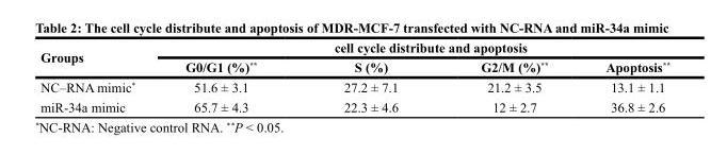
<table><thead><tr><td rowspan="2">Groups</td><td colspan="4">cell cycle distribute and apoptosis</td></tr><tr><td>G0/G1 (%)**</td><td>S (%)</td><td>G2/M (%)**</td><td>Apoptosis**</td></tr></thead><tbody><tr><td>NC–RNA mimic*</td><td>51.6 ± 3.1</td><td>27.2 ± 7.1</td><td>21.2 ± 3.5</td><td>13.1 ± 1.1</td></tr><tr><td>miR-34a mimic</td><td>65.7 ± 4.3</td><td>22.3 ± 4.6</td><td>12 ± 2.7</td><td>36.8 ± 2.6</td></tr></tbody></table>